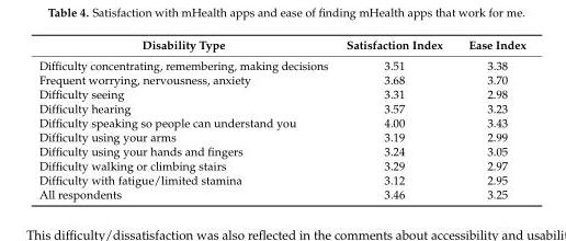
<table><thead><tr><td>Disability Type</td><td>Satisfaction Index</td><td>Ease Index</td></tr></thead><tbody><tr><td>Difficulty concentrating, remembering, making decisions</td><td>3.51</td><td>3.38</td></tr><tr><td>Frequent worrying, nervousness, anxiety</td><td>3.68</td><td>3.70</td></tr><tr><td>Difficulty seeing</td><td>3.31</td><td>2.98</td></tr><tr><td>Difficulty hearing</td><td>3.57</td><td>3.23</td></tr><tr><td>Difficulty speaking so people can understand you</td><td>4.00</td><td>3.43</td></tr><tr><td>Difficulty using your arms</td><td>3.19</td><td>2.99</td></tr><tr><td>Difficulty using your hands and fingers</td><td>3.24</td><td>3.05</td></tr><tr><td>Difficulty walking or climbing stairs</td><td>3.29</td><td>2.97</td></tr><tr><td>Difficulty with fatigue/limited stamina</td><td>3.12</td><td>2.95</td></tr><tr><td>All respondents</td><td>3.46</td><td>3.25</td></tr></tbody></table>